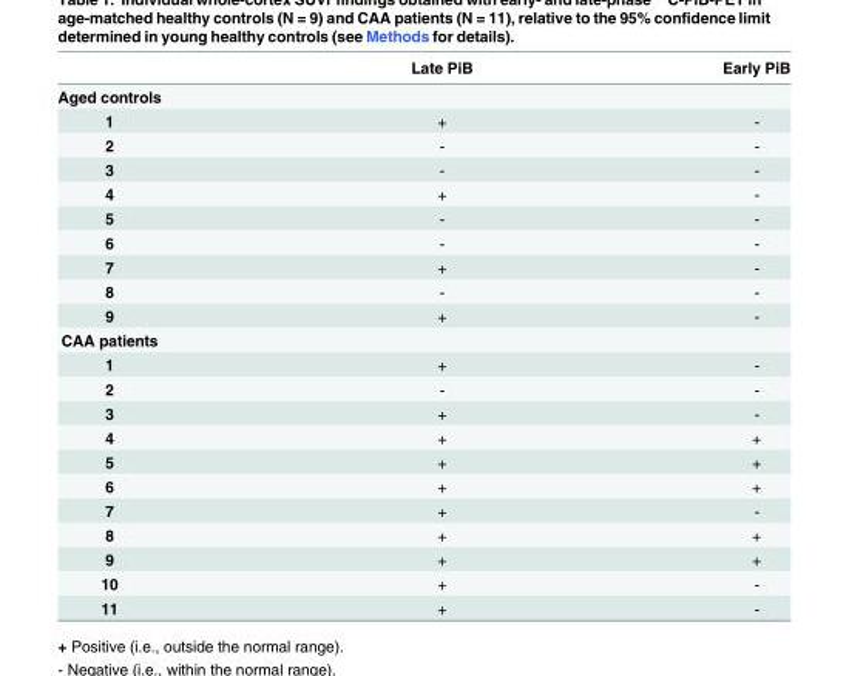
<table><thead><tr><td></td><td>Late PiB</td><td>Early PiB</td></tr></thead><tbody><tr><td colspan="3">Aged controls</td></tr><tr><td>1</td><td>+</td><td>-</td></tr><tr><td>2</td><td>-</td><td>-</td></tr><tr><td>3</td><td>-</td><td>-</td></tr><tr><td>4</td><td>+</td><td>-</td></tr><tr><td>5</td><td>-</td><td>-</td></tr><tr><td>6</td><td>-</td><td>-</td></tr><tr><td>7</td><td>+</td><td>-</td></tr><tr><td>8</td><td>-</td><td>-</td></tr><tr><td>9</td><td>+</td><td>-</td></tr><tr><td colspan="3">CAA patients</td></tr><tr><td>1</td><td>+</td><td>-</td></tr><tr><td>2</td><td>-</td><td>-</td></tr><tr><td>3</td><td>+</td><td>-</td></tr><tr><td>4</td><td>+</td><td>+</td></tr><tr><td>5</td><td>+</td><td>+</td></tr><tr><td>6</td><td>+</td><td>+</td></tr><tr><td>7</td><td>+</td><td>-</td></tr><tr><td>8</td><td>+</td><td>+</td></tr><tr><td>9</td><td>+</td><td>+</td></tr><tr><td>10</td><td>+</td><td>-</td></tr><tr><td>11</td><td>+</td><td>-</td></tr></tbody></table>